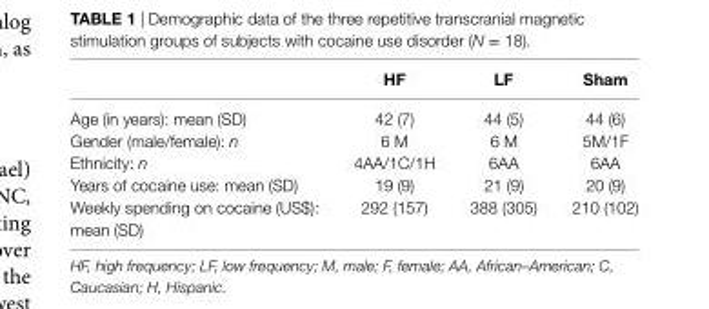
<table><thead><tr><td></td><td>hF</td><td>lF</td><td>sham</td></tr></thead><tbody><tr><td>Age (in years): mean (SD)</td><td>42 (7)</td><td>44 (5)</td><td>44 (6)</td></tr><tr><td>Gender (male/female): n</td><td>6 M</td><td>6 M</td><td>5M/1F</td></tr><tr><td>Ethnicity: n</td><td>4AA/1C/1H</td><td>6AA</td><td>6AA</td></tr><tr><td>Years of cocaine use: mean (SD)</td><td>19 (9)</td><td>21 (9)</td><td>20 (9)</td></tr><tr><td>Weekly spending on cocaine (US$): mean (SD)</td><td>292 (157)</td><td>388 (305)</td><td>210 (102)</td></tr></tbody></table>